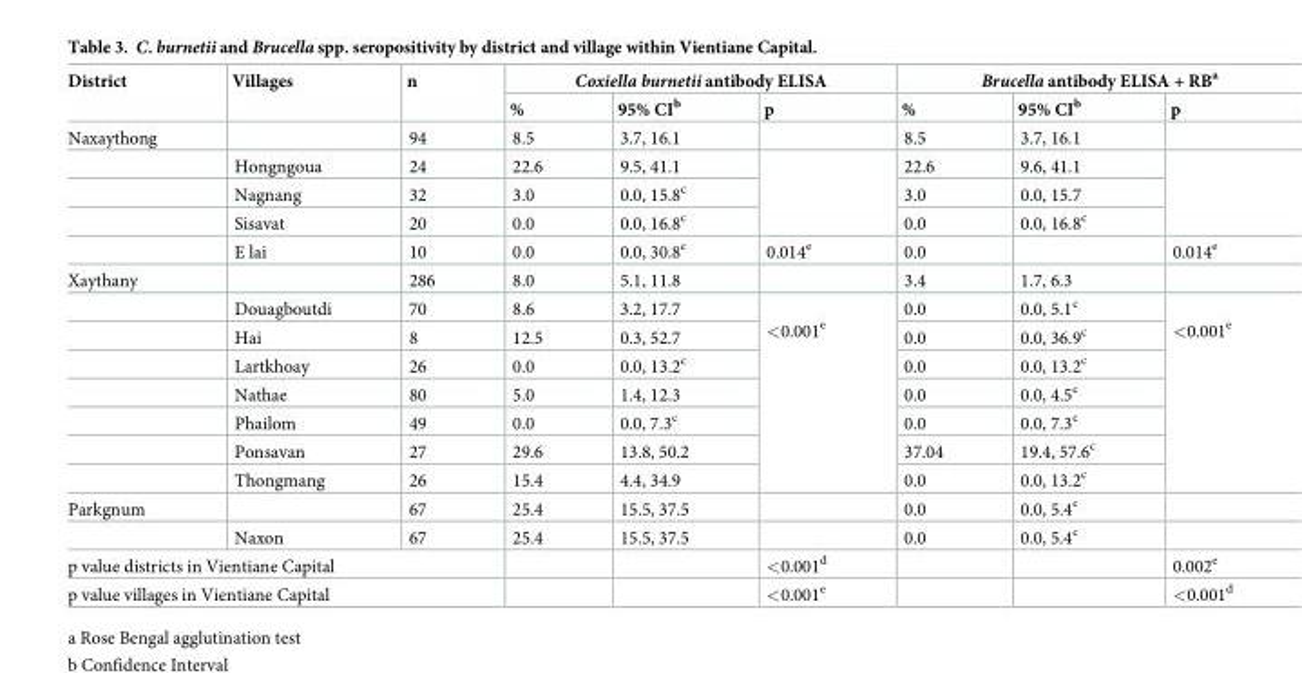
<table><thead><tr><td rowspan="2">District</td><td rowspan="2">Villages</td><td rowspan="2">n</td><td colspan="3">Coxiella burnetii antibody ELISA</td><td colspan="3">Brucella antibody ELISA + RB<sup>a</sup></td></tr><tr><td>%</td><td>95% CI<sup>b</sup></td><td>p</td><td>%</td><td>95% CI<sup>b</sup></td><td>p</td></tr></thead><tbody><tr><td rowspan="5">Naxaythong</td><td></td><td>94</td><td>8.5</td><td>3.7, 16.1</td><td></td><td>8.5</td><td>3.7, 16.1</td><td></td></tr><tr><td>Hongngoua</td><td>24</td><td>22.6</td><td>9.5, 41.1</td><td rowspan="3"></td><td>22.6</td><td>9.6, 41.1</td><td rowspan="3"></td></tr><tr><td>Nagnang</td><td>32</td><td>3.0</td><td>0.0, 15.8<sup>c</sup></td><td>3.0</td><td>0.0, 15.7</td></tr><tr><td>Sisavat</td><td>20</td><td>0.0</td><td>0.0, 16.8<sup>c</sup></td><td>0.0</td><td>0.0, 16.8<sup>c</sup></td></tr><tr><td>E lai</td><td>10</td><td>0.0</td><td>0.0, 30.8<sup>c</sup></td><td>0.014<sup>e</sup></td><td>0.0</td><td></td><td>0.014<sup>e</sup></td></tr><tr><td rowspan="8">Xaythany</td><td></td><td>286</td><td>8.0</td><td>5.1, 11.8</td><td></td><td>3.4</td><td>1.7, 6.3</td><td></td></tr><tr><td>Douagboutdi</td><td>70</td><td>8.6</td><td>3.2, 17.7</td><td rowspan="7">&lt;0.001<sup>e</sup></td><td>0.0</td><td>0.0, 5.1<sup>c</sup></td><td rowspan="7">&lt;0.001<sup>e</sup></td></tr><tr><td>Hai</td><td>8</td><td>12.5</td><td>0.3, 52.7</td><td>0.0</td><td>0.0, 36.9<sup>c</sup></td></tr><tr><td>Lartkhoay</td><td>26</td><td>0.0</td><td>0.0, 13.2<sup>c</sup></td><td>0.0</td><td>0.0, 13.2<sup>c</sup></td></tr><tr><td>Nathae</td><td>80</td><td>5.0</td><td>1.4, 12.3</td><td>0.0</td><td>0.0, 4.5<sup>c</sup></td></tr><tr><td>Phailom</td><td>49</td><td>0.0</td><td>0.0, 7.3<sup>c</sup></td><td>0.0</td><td>0.0, 7.3<sup>c</sup></td></tr><tr><td>Ponsavan</td><td>27</td><td>29.6</td><td>13.8, 50.2</td><td>37.04</td><td>19.4, 57.6<sup>c</sup></td></tr><tr><td>Thongmang</td><td>26</td><td>15.4</td><td>4.4, 34.9</td><td>0.0</td><td>0.0, 13.2<sup>c</sup></td></tr><tr><td rowspan="2">Parkgnum</td><td></td><td>67</td><td>25.4</td><td>15.5, 37.5</td><td></td><td>0.0</td><td>0.0, 5.4<sup>c</sup></td><td></td></tr><tr><td>Naxon</td><td>67</td><td>25.4</td><td>15.5, 37.5</td><td></td><td>0.0</td><td>0.0, 5.4<sup>c</sup></td><td></td></tr><tr><td colspan="3">p value districts in Vientiane Capital</td><td></td><td></td><td>&lt;0.001<sup>d</sup></td><td></td><td></td><td>0.002<sup>e</sup></td></tr><tr><td colspan="3">p value villages in Vientiane Capital</td><td></td><td></td><td>&lt;0.001<sup>e</sup></td><td></td><td></td><td>&lt;0.001<sup>d</sup></td></tr></tbody></table>